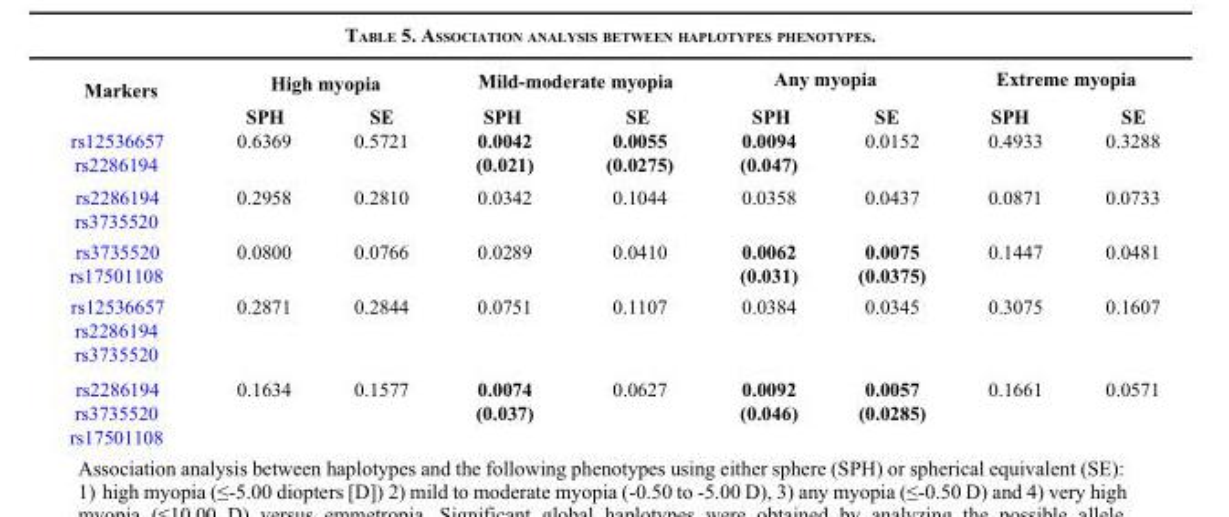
<table><thead><tr><td rowspan="2">Markers</td><td colspan="2">High myopia</td><td colspan="2">Mild-moderate myopia</td><td colspan="2">Any myopia</td><td colspan="2">Extreme myopia</td></tr><tr><td>SPH</td><td>SE</td><td>SPH</td><td>SE</td><td>SPH</td><td>SE</td><td>SPH</td><td>SE</td></tr></thead><tbody><tr><td>rs12536657 rs2286194</td><td>0.6369</td><td>0.5721</td><td>0.0042 (0.021)</td><td>0.0055 (0.0275)</td><td>0.0094 (0.047)</td><td>0.0152</td><td>0.4933</td><td>0.3288</td></tr><tr><td>rs2286194 rs3735520</td><td>0.2958</td><td>0.2810</td><td>0.0342</td><td>0.1044</td><td>0.0358</td><td>0.0437</td><td>0.0871</td><td>0.0733</td></tr><tr><td>rs3735520 rs17501108</td><td>0.0800</td><td>0.0766</td><td>0.0289</td><td>0.0410</td><td>0.0062 (0.031)</td><td>0.0075 (0.0375)</td><td>0.1447</td><td>0.0481</td></tr><tr><td>rs12536657 rs2286194 rs3735520</td><td>0.2871</td><td>0.2844</td><td>0.0751</td><td>0.1107</td><td>0.0384</td><td>0.0345</td><td>0.3075</td><td>0.1607</td></tr><tr><td>rs2286194 rs3735520 rs17501108</td><td>0.1634</td><td>0.1577</td><td>0.0074 (0.037)</td><td>0.0627</td><td>0.0092 (0.046)</td><td>0.0057 (0.0285)</td><td>0.1661</td><td>0.0571</td></tr></tbody></table>